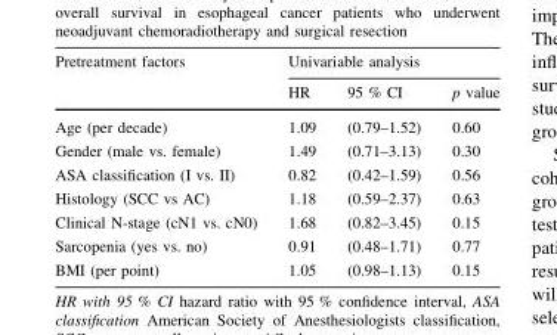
<table><thead><tr><td rowspan="2">Pretreatment factors</td><td colspan="3">Univariable analysis</td></tr><tr><td>HR</td><td>95 % CI</td><td>p value</td></tr></thead><tbody><tr><td>Age (per decade)</td><td>1.09</td><td>(0.79–1.52)</td><td>0.60</td></tr><tr><td>Gender (male vs. female)</td><td>1.49</td><td>(0.71–3.13)</td><td>0.30</td></tr><tr><td>ASA classification (I vs. II)</td><td>0.82</td><td>(0.42–1.59)</td><td>0.56</td></tr><tr><td>Histology (SCC vs AC)</td><td>1.18</td><td>(0.59–2.37)</td><td>0.63</td></tr><tr><td>Clinical N-stage (cN1 vs. cN0)</td><td>1.68</td><td>(0.82–3.45)</td><td>0.15</td></tr><tr><td>Sarcopenia (yes vs. no)</td><td>0.91</td><td>(0.48–1.71)</td><td>0.77</td></tr><tr><td>BMI (per point)</td><td>1.05</td><td>(0.98–1.13)</td><td>0.15</td></tr></tbody></table>